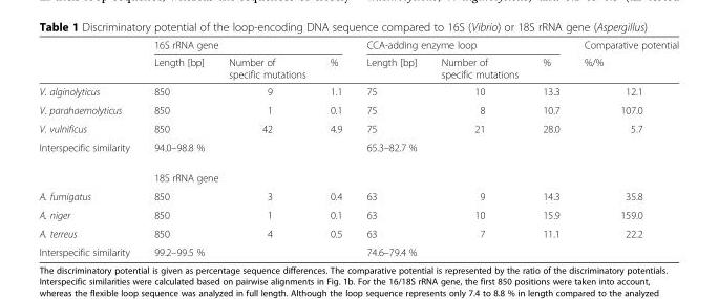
<table><thead><tr><td rowspan="2"></td><td colspan="3">16S rRNA gene</td><td colspan="3">CCA-adding enzyme loop</td><td rowspan="2">Comparative potential %/%</td></tr><tr><td>Length [bp]</td><td>Number of specific mutations</td><td>%</td><td>Length [bp]</td><td>Number of specific mutations</td><td>%</td></tr></thead><tbody><tr><td>V. alginolyticus</td><td>850</td><td>9</td><td>1.1</td><td>75</td><td>10</td><td>13.3</td><td>12.1</td></tr><tr><td>V. parahaemolyticus</td><td>850</td><td>1</td><td>0.1</td><td>75</td><td>8</td><td>10.7</td><td>107.0</td></tr><tr><td>V. vulnificus</td><td>850</td><td>42</td><td>4.9</td><td>75</td><td>21</td><td>28.0</td><td>5.7</td></tr><tr><td rowspan="2">Interspecific similarity</td><td colspan="3">94.0–98.8 %</td><td colspan="3">65.3–82.7 %</td><td></td></tr><tr><td colspan="3">18S rRNA gene</td><td></td><td></td><td></td><td></td></tr><tr><td>A. fumigatus</td><td>850</td><td>3</td><td>0.4</td><td>63</td><td>9</td><td>14.3</td><td>35.8</td></tr><tr><td>A. niger</td><td>850</td><td>1</td><td>0.1</td><td>63</td><td>10</td><td>15.9</td><td>159.0</td></tr><tr><td>A. terreus</td><td>850</td><td>4</td><td>0.5</td><td>63</td><td>7</td><td>11.1</td><td>22.2</td></tr><tr><td>Interspecific similarity</td><td colspan="3">99.2–99.5 %</td><td colspan="3">74.6–79.4 %</td><td></td></tr></tbody></table>